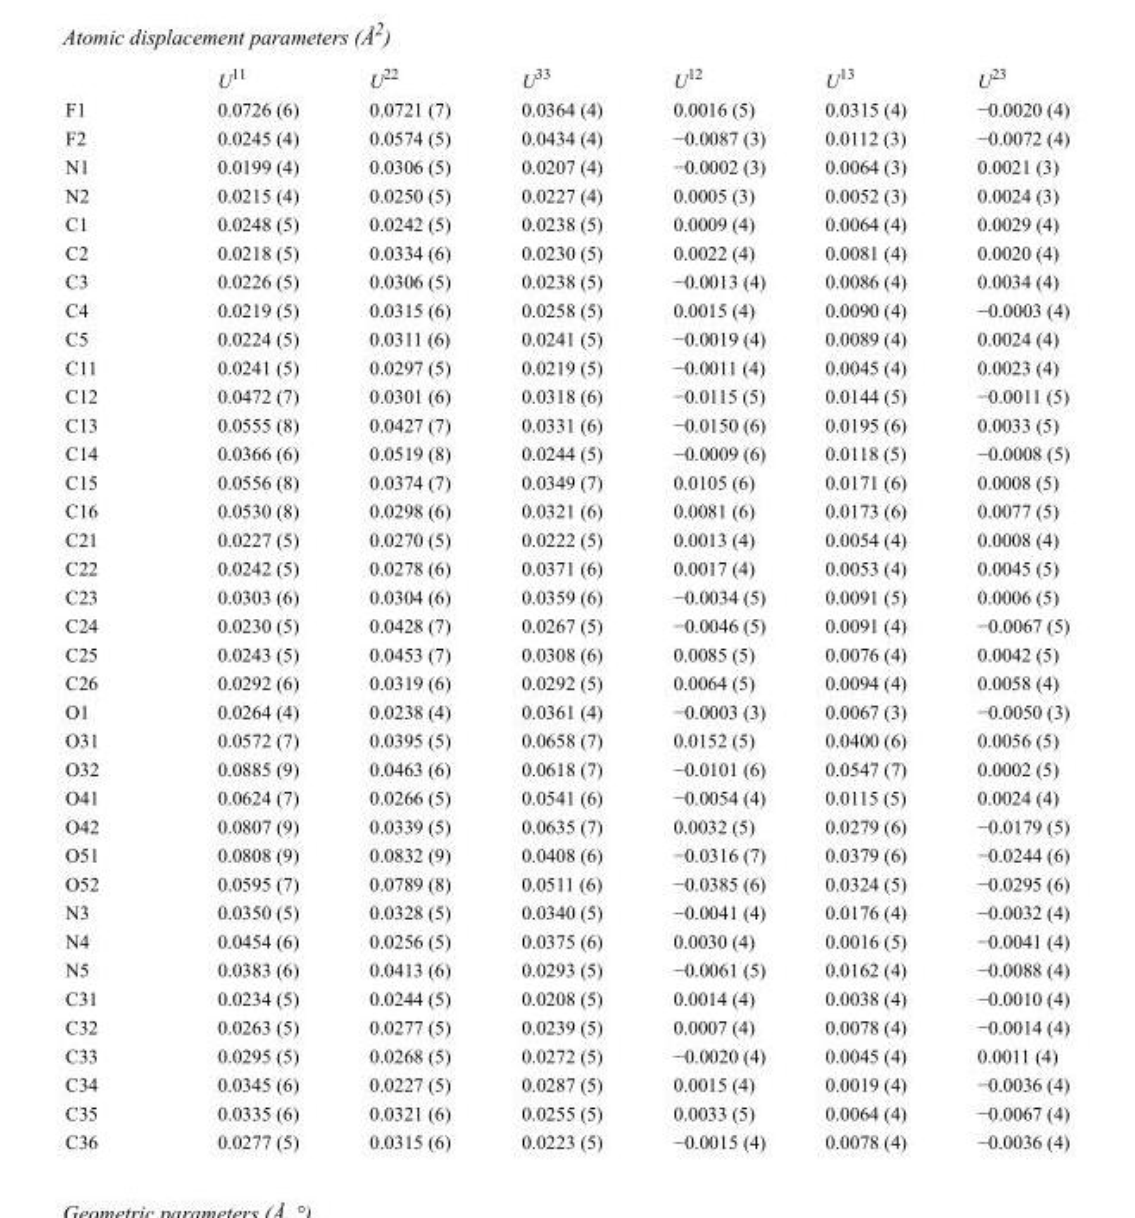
<table><thead><tr><td></td><td>U<sup>11</sup></td><td>U<sup>22</sup></td><td>U<sup>33</sup></td><td>U<sup>12</sup></td><td>U<sup>13</sup></td><td>U<sup>23</sup></td></tr></thead><tbody><tr><td>F1</td><td>0.0726 (6)</td><td>0.0721 (7)</td><td>0.0364 (4)</td><td>0.0016 (5)</td><td>0.0315 (4)</td><td>−0.0020 (4)</td></tr><tr><td>F2</td><td>0.0245 (4)</td><td>0.0574 (5)</td><td>0.0434 (4)</td><td>−0.0087 (3)</td><td>0.0112 (3)</td><td>−0.0072 (4)</td></tr><tr><td>N1</td><td>0.0199 (4)</td><td>0.0306 (5)</td><td>0.0207 (4)</td><td>−0.0002 (3)</td><td>0.0064 (3)</td><td>0.0021 (3)</td></tr><tr><td>N2</td><td>0.0215 (4)</td><td>0.0250 (5)</td><td>0.0227 (4)</td><td>0.0005 (3)</td><td>0.0052 (3)</td><td>0.0024 (3)</td></tr><tr><td>C1</td><td>0.0248 (5)</td><td>0.0242 (5)</td><td>0.0238 (5)</td><td>0.0009 (4)</td><td>0.0064 (4)</td><td>0.0029 (4)</td></tr><tr><td>C2</td><td>0.0218 (5)</td><td>0.0334 (6)</td><td>0.0230 (5)</td><td>0.0022 (4)</td><td>0.0081 (4)</td><td>0.0020 (4)</td></tr><tr><td>C3</td><td>0.0226 (5)</td><td>0.0306 (5)</td><td>0.0238 (5)</td><td>−0.0013 (4)</td><td>0.0086 (4)</td><td>0.0034 (4)</td></tr><tr><td>C4</td><td>0.0219 (5)</td><td>0.0315 (6)</td><td>0.0258 (5)</td><td>0.0015 (4)</td><td>0.0090 (4)</td><td>−0.0003 (4)</td></tr><tr><td>C5</td><td>0.0224 (5)</td><td>0.0311 (6)</td><td>0.0241 (5)</td><td>−0.0019 (4)</td><td>0.0089 (4)</td><td>0.0024 (4)</td></tr><tr><td>C11</td><td>0.0241 (5)</td><td>0.0297 (5)</td><td>0.0219 (5)</td><td>−0.0011 (4)</td><td>0.0045 (4)</td><td>0.0023 (4)</td></tr><tr><td>C12</td><td>0.0472 (7)</td><td>0.0301 (6)</td><td>0.0318 (6)</td><td>−0.0115 (5)</td><td>0.0144 (5)</td><td>−0.0011 (5)</td></tr><tr><td>C13</td><td>0.0555 (8)</td><td>0.0427 (7)</td><td>0.0331 (6)</td><td>−0.0150 (6)</td><td>0.0195 (6)</td><td>0.0033 (5)</td></tr><tr><td>C14</td><td>0.0366 (6)</td><td>0.0519 (8)</td><td>0.0244 (5)</td><td>−0.0009 (6)</td><td>0.0118 (5)</td><td>−0.0008 (5)</td></tr><tr><td>C15</td><td>0.0556 (8)</td><td>0.0374 (7)</td><td>0.0349 (7)</td><td>0.0105 (6)</td><td>0.0171 (6)</td><td>0.0008 (5)</td></tr><tr><td>C16</td><td>0.0530 (8)</td><td>0.0298 (6)</td><td>0.0321 (6)</td><td>0.0081 (6)</td><td>0.0173 (6)</td><td>0.0077 (5)</td></tr><tr><td>C21</td><td>0.0227 (5)</td><td>0.0270 (5)</td><td>0.0222 (5)</td><td>0.0013 (4)</td><td>0.0054 (4)</td><td>0.0008 (4)</td></tr><tr><td>C22</td><td>0.0242 (5)</td><td>0.0278 (6)</td><td>0.0371 (6)</td><td>0.0017 (4)</td><td>0.0053 (4)</td><td>0.0045 (5)</td></tr><tr><td>C23</td><td>0.0303 (6)</td><td>0.0304 (6)</td><td>0.0359 (6)</td><td>−0.0034 (5)</td><td>0.0091 (5)</td><td>0.0006 (5)</td></tr><tr><td>C24</td><td>0.0230 (5)</td><td>0.0428 (7)</td><td>0.0267 (5)</td><td>−0.0046 (5)</td><td>0.0091 (4)</td><td>−0.0067 (5)</td></tr><tr><td>C25</td><td>0.0243 (5)</td><td>0.0453 (7)</td><td>0.0308 (6)</td><td>0.0085 (5)</td><td>0.0076 (4)</td><td>0.0042 (5)</td></tr><tr><td>C26</td><td>0.0292 (6)</td><td>0.0319 (6)</td><td>0.0292 (5)</td><td>0.0064 (5)</td><td>0.0094 (4)</td><td>0.0058 (4)</td></tr><tr><td>O1</td><td>0.0264 (4)</td><td>0.0238 (4)</td><td>0.0361 (4)</td><td>−0.0003 (3)</td><td>0.0067 (3)</td><td>−0.0050 (3)</td></tr><tr><td>O31</td><td>0.0572 (7)</td><td>0.0395 (5)</td><td>0.0658 (7)</td><td>0.0152 (5)</td><td>0.0400 (6)</td><td>0.0056 (5)</td></tr><tr><td>O32</td><td>0.0885 (9)</td><td>0.0463 (6)</td><td>0.0618 (7)</td><td>−0.0101 (6)</td><td>0.0547 (7)</td><td>0.0002 (5)</td></tr><tr><td>O41</td><td>0.0624 (7)</td><td>0.0266 (5)</td><td>0.0541 (6)</td><td>−0.0054 (4)</td><td>0.0115 (5)</td><td>0.0024 (4)</td></tr><tr><td>O42</td><td>0.0807 (9)</td><td>0.0339 (5)</td><td>0.0635 (7)</td><td>0.0032 (5)</td><td>0.0279 (6)</td><td>−0.0179 (5)</td></tr><tr><td>O51</td><td>0.0808 (9)</td><td>0.0832 (9)</td><td>0.0408 (6)</td><td>−0.0316 (7)</td><td>0.0379 (6)</td><td>−0.0244 (6)</td></tr><tr><td>O52</td><td>0.0595 (7)</td><td>0.0789 (8)</td><td>0.0511 (6)</td><td>−0.0385 (6)</td><td>0.0324 (5)</td><td>−0.0295 (6)</td></tr><tr><td>N3</td><td>0.0350 (5)</td><td>0.0328 (5)</td><td>0.0340 (5)</td><td>−0.0041 (4)</td><td>0.0176 (4)</td><td>−0.0032 (4)</td></tr><tr><td>N4</td><td>0.0454 (6)</td><td>0.0256 (5)</td><td>0.0375 (6)</td><td>0.0030 (4)</td><td>0.0016 (5)</td><td>−0.0041 (4)</td></tr><tr><td>N5</td><td>0.0383 (6)</td><td>0.0413 (6)</td><td>0.0293 (5)</td><td>−0.0061 (5)</td><td>0.0162 (4)</td><td>−0.0088 (4)</td></tr><tr><td>C31</td><td>0.0234 (5)</td><td>0.0244 (5)</td><td>0.0208 (5)</td><td>0.0014 (4)</td><td>0.0038 (4)</td><td>−0.0010 (4)</td></tr><tr><td>C32</td><td>0.0263 (5)</td><td>0.0277 (5)</td><td>0.0239 (5)</td><td>0.0007 (4)</td><td>0.0078 (4)</td><td>−0.0014 (4)</td></tr><tr><td>C33</td><td>0.0295 (5)</td><td>0.0268 (5)</td><td>0.0272 (5)</td><td>−0.0020 (4)</td><td>0.0045 (4)</td><td>0.0011 (4)</td></tr><tr><td>C34</td><td>0.0345 (6)</td><td>0.0227 (5)</td><td>0.0287 (5)</td><td>0.0015 (4)</td><td>0.0019 (4)</td><td>−0.0036 (4)</td></tr><tr><td>C35</td><td>0.0335 (6)</td><td>0.0321 (6)</td><td>0.0255 (5)</td><td>0.0033 (5)</td><td>0.0064 (4)</td><td>−0.0067 (4)</td></tr><tr><td>C36</td><td>0.0277 (5)</td><td>0.0315 (6)</td><td>0.0223 (5)</td><td>−0.0015 (4)</td><td>0.0078 (4)</td><td>−0.0036 (4)</td></tr></tbody></table>